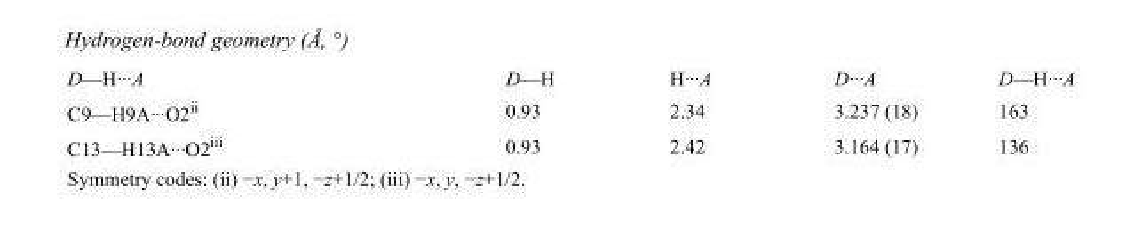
<table><tbody><tr><td>D—H···A</td><td>D—H</td><td>H···A</td><td>D···A</td><td>D—H···A</td></tr><tr><td>C9—H9A···O2<sup>ii</sup></td><td>0.93</td><td>2.34</td><td>3.237 (18)</td><td>163</td></tr><tr><td>C13—H13A···O2<sup>iii</sup></td><td>0.93</td><td>2.42</td><td>3.164 (17)</td><td>136</td></tr></tbody></table>